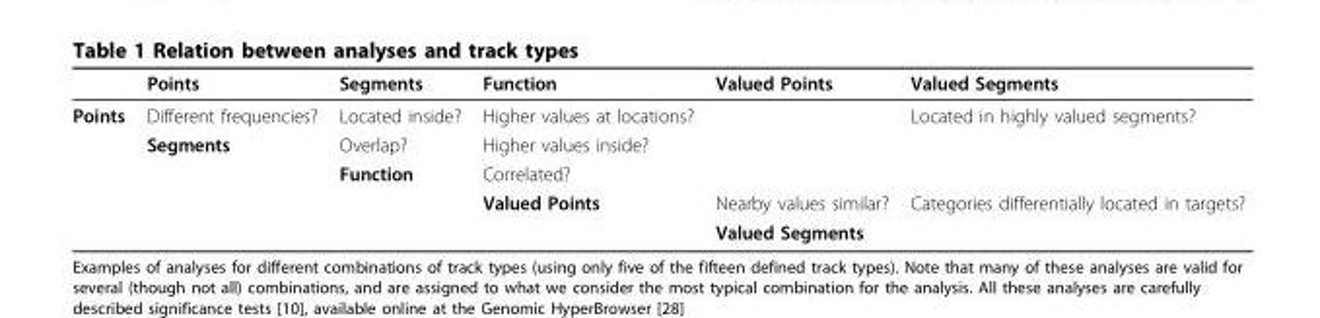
<table><thead><tr><td></td><td>Points</td><td>Segments</td><td>Function</td><td>Valued Points</td><td>Valued Segments</td></tr></thead><tbody><tr><td rowspan="5">Points</td><td>Different frequencies?</td><td>Located inside?</td><td>Higher values at locations?</td><td></td><td>Located in highly valued segments?</td></tr><tr><td>Segments</td><td>Overlap?</td><td>Higher values inside?</td><td></td><td></td></tr><tr><td></td><td>Function</td><td>Correlated?</td><td></td><td></td></tr><tr><td></td><td></td><td>Valued Points</td><td>Nearby values similar?</td><td>Categories differentially located in targets?</td></tr><tr><td></td><td></td><td></td><td>Valued Segments</td><td></td></tr></tbody></table>